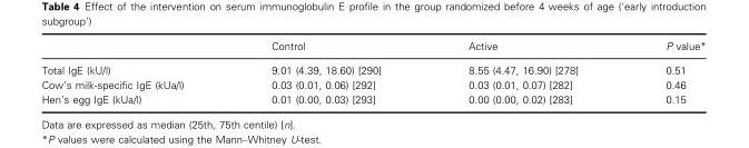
<table><thead><tr><td></td><td>Control</td><td>Active</td><td>P value*</td></tr></thead><tbody><tr><td>Total IgE (kU/l)</td><td>9.01 (4.39, 18.60) [290]</td><td>8.55 (4.47, 16.90) [278]</td><td>0.51</td></tr><tr><td>Cow’s milk-specific IgE (kUa/l)</td><td>0.03 (0.01, 0.06) [292]</td><td>0.03 (0.01, 0.07) [282]</td><td>0.46</td></tr><tr><td>Hen’s egg IgE (kUa/l)</td><td>0.01 (0.00, 0.03) [293]</td><td>0.00 (0.00, 0.02) [283]</td><td>0.15</td></tr></tbody></table>